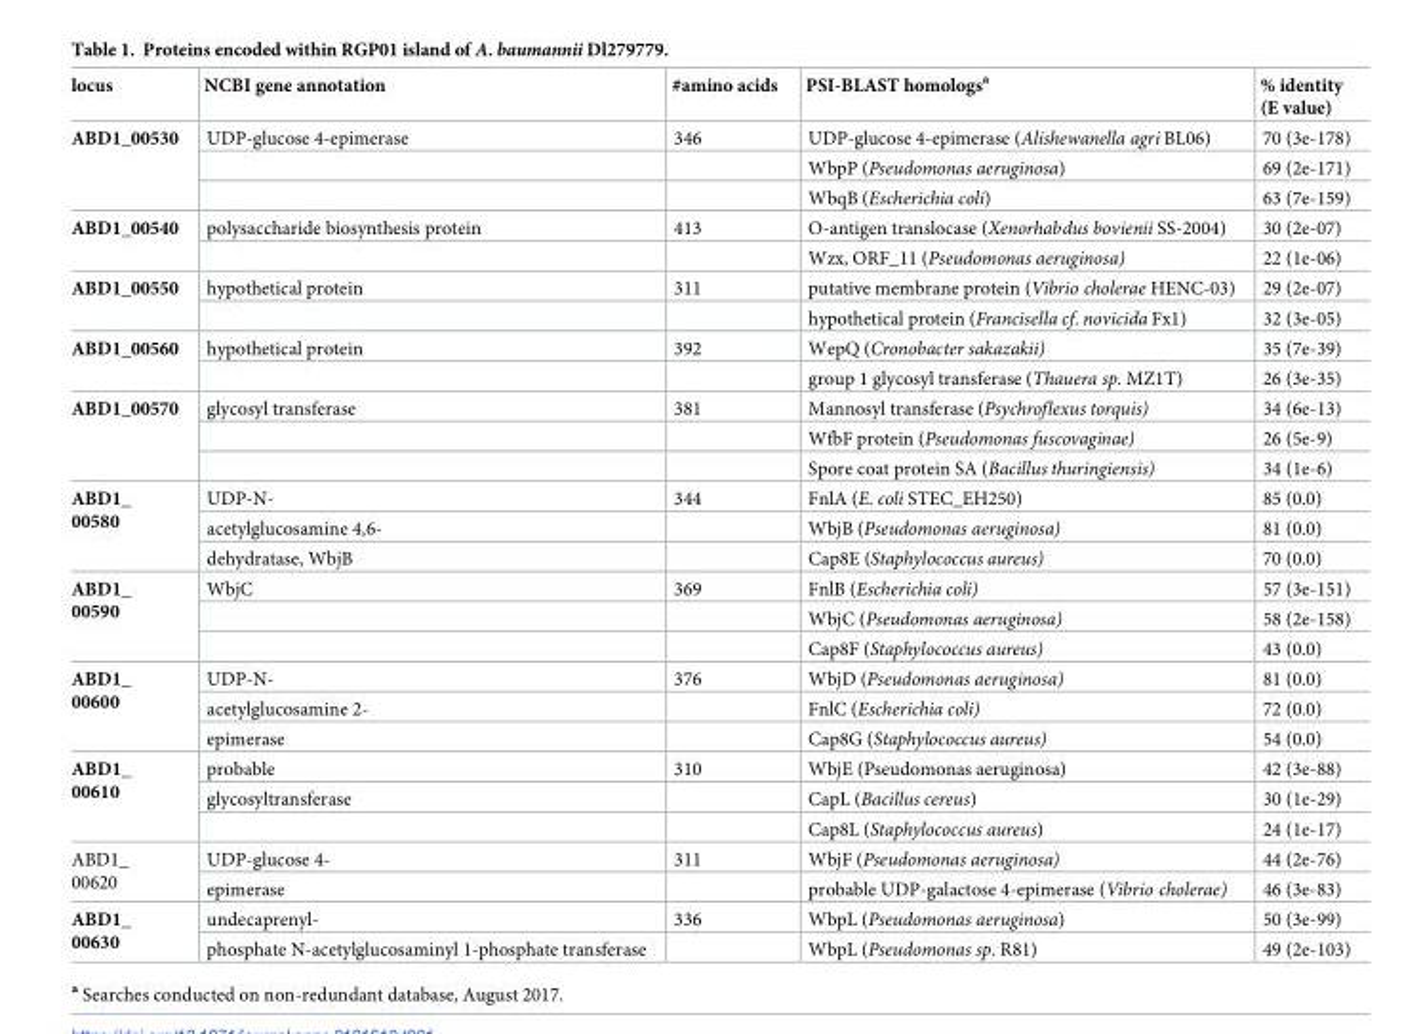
<table><thead><tr><td>locus</td><td>NCBI gene annotation</td><td>#amino acids</td><td>PSI-BLAST homologs<sup>a</sup></td><td>% identity (E value)</td></tr></thead><tbody><tr><td rowspan="3">ABD1_00530</td><td>UDP-glucose 4-epimerase</td><td>346</td><td>UDP-glucose 4-epimerase (Alishewanella agri BL06)</td><td>70 (3e-178)</td></tr><tr><td></td><td></td><td>WbpP (Pseudomonas aeruginosa)</td><td>69 (2e-171)</td></tr><tr><td></td><td></td><td>WbqB (Escherichia coli)</td><td>63 (7e-159)</td></tr><tr><td rowspan="2">ABD1_00540</td><td>polysaccharide biosynthesis protein</td><td>413</td><td>O-antigen translocase (Xenorhabdus bovienii SS-2004)</td><td>30 (2e-07)</td></tr><tr><td></td><td></td><td>Wzx, ORF_11 (Pseudomonas aeruginosa)</td><td>22 (1e-06)</td></tr><tr><td rowspan="2">ABD1_00550</td><td>hypothetical protein</td><td>311</td><td>putative membrane protein (Vibrio cholerae HENC-03)</td><td>29 (2e-07)</td></tr><tr><td></td><td></td><td>hypothetical protein (Francisella cf. novicida Fx1)</td><td>32 (3e-05)</td></tr><tr><td rowspan="2">ABD1_00560</td><td>hypothetical protein</td><td>392</td><td>WepQ (Cronobacter sakazakii)</td><td>35 (7e-39)</td></tr><tr><td></td><td></td><td>group 1 glycosyl transferase (Thauera sp. MZ1T)</td><td>26 (3e-35)</td></tr><tr><td rowspan="3">ABD1_00570</td><td>glycosyl transferase</td><td>381</td><td>Mannosyl transferase (Psychroflexus torquis)</td><td>34 (6e-13)</td></tr><tr><td></td><td></td><td>WfbF protein (Pseudomonas fuscovaginae)</td><td>26 (5e-9)</td></tr><tr><td></td><td></td><td>Spore coat protein SA (Bacillus thuringiensis)</td><td>34 (1e-6)</td></tr><tr><td rowspan="3">ABD1_ 00580</td><td>UDP-N-</td><td>344</td><td>FnlA (E. coli STEC_EH250)</td><td>85 (0.0)</td></tr><tr><td>acetylglucosamine 4,6-</td><td></td><td>WbjB (Pseudomonas aeruginosa)</td><td>81 (0.0)</td></tr><tr><td>dehydratase, WbjB</td><td></td><td>Cap8E (Staphylococcus aureus)</td><td>70 (0.0)</td></tr><tr><td rowspan="3">ABD1_ 00590</td><td>WbjC</td><td>369</td><td>FnlB (Escherichia coli)</td><td>57 (3e-151)</td></tr><tr><td></td><td></td><td>WbjC (Pseudomonas aeruginosa)</td><td>58 (2e-158)</td></tr><tr><td></td><td></td><td>Cap8F (Staphylococcus aureus)</td><td>43 (0.0)</td></tr><tr><td rowspan="3">ABD1_ 00600</td><td>UDP-N-</td><td>376</td><td>WbjD (Pseudomonas aeruginosa)</td><td>81 (0.0)</td></tr><tr><td>acetylglucosamine 2-</td><td></td><td>FnlC (Escherichia coli)</td><td>72 (0.0)</td></tr><tr><td>epimerase</td><td></td><td>Cap8G (Staphylococcus aureus)</td><td>54 (0.0)</td></tr><tr><td rowspan="3">ABD1_ 00610</td><td>probable</td><td>310</td><td>WbjE (Pseudomonas aeruginosa)</td><td>42 (3e-88)</td></tr><tr><td>glycosyltransferase</td><td></td><td>CapL (Bacillus cereus)</td><td>30 (1e-29)</td></tr><tr><td></td><td></td><td>Cap8L (Staphylococcus aureus)</td><td>24 (1e-17)</td></tr><tr><td rowspan="2">ABD1_ 00620</td><td>UDP-glucose 4-</td><td>311</td><td>WbjF (Pseudomonas aeruginosa)</td><td>44 (2e-76)</td></tr><tr><td>epimerase</td><td></td><td>probable UDP-galactose 4-epimerase (Vibrio cholerae)</td><td>46 (3e-83)</td></tr><tr><td rowspan="2">ABD1_ 00630</td><td>undecaprenyl-</td><td>336</td><td>WbpL (Pseudomonas aeruginosa)</td><td>50 (3e-99)</td></tr><tr><td>phosphate N-acetylglucosaminyl 1-phosphate transferase</td><td></td><td>WbpL (Pseudomonas sp. R81)</td><td>49 (2e-103)</td></tr></tbody></table>